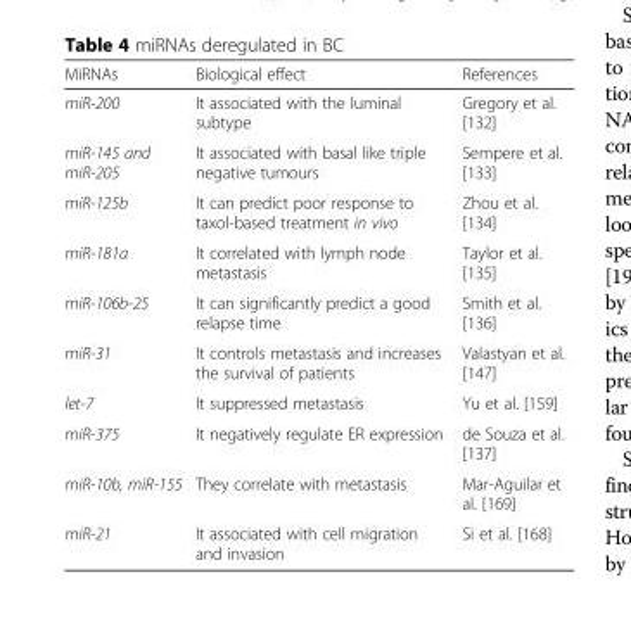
<table><thead><tr><td>MiRNAs</td><td>Biological effect</td><td>References</td></tr></thead><tbody><tr><td>miR-200</td><td>It associated with the luminal subtype</td><td>Gregory et al. [132]</td></tr><tr><td>miR-145 and miR-205</td><td>It associated with basal like triple negative tumours</td><td>Sempere et al. [133]</td></tr><tr><td>miR-125b</td><td>It can predict poor response to taxol-based treatment in vivo</td><td>Zhou et al. [134]</td></tr><tr><td>miR-181a</td><td>It correlated with lymph node metastasis</td><td>Taylor et al. [135]</td></tr><tr><td>miR-106b-25</td><td>It can significantly predict a good relapse time</td><td>Smith et al. [136]</td></tr><tr><td>miR-31</td><td>It controls metastasis and increases the survival of patients</td><td>Valastyan et al. [147]</td></tr><tr><td>let-7</td><td>It suppressed metastasis</td><td>Yu et al. [159]</td></tr><tr><td>miR-375</td><td>It negatively regulate ER expression</td><td>de Souza et al. [137]</td></tr><tr><td>miR-10b, miR-155</td><td>They correlate with metastasis</td><td>Mar-Aguilar et al. [169]</td></tr><tr><td>miR-21</td><td>It associated with cell migration and invasion</td><td>Si et al. [168]</td></tr></tbody></table>